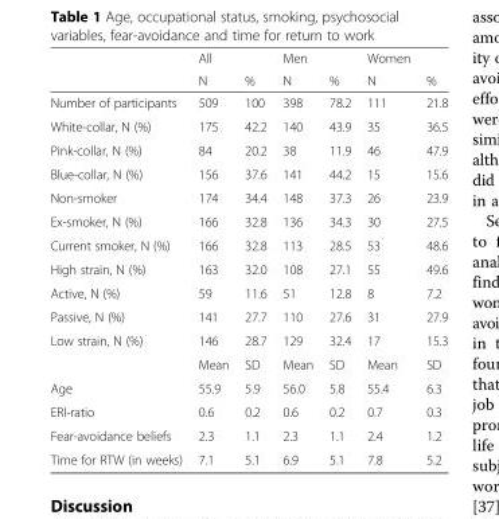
<table><thead><tr><td rowspan="2"></td><td rowspan="2">All N</td><td rowspan="2">%</td><td rowspan="2">Men N</td><td rowspan="2">%</td><td rowspan="2">Women N</td><td rowspan="2">%</td></tr><tr></tr></thead><tbody><tr><td>Number of participants</td><td>509</td><td>100</td><td>398</td><td>78.2</td><td>111</td><td>21.8</td></tr><tr><td>White-collar, N (%)</td><td>175</td><td>42.2</td><td>140</td><td>43.9</td><td>35</td><td>36.5</td></tr><tr><td>Pink-collar, N (%)</td><td>84</td><td>20.2</td><td>38</td><td>11.9</td><td>46</td><td>47.9</td></tr><tr><td>Blue-collar, N (%)</td><td>156</td><td>37.6</td><td>141</td><td>44.2</td><td>15</td><td>15.6</td></tr><tr><td>Non-smoker</td><td>174</td><td>34.4</td><td>148</td><td>37.3</td><td>26</td><td>23.9</td></tr><tr><td>Ex-smoker, N (%)</td><td>166</td><td>32.8</td><td>136</td><td>34.3</td><td>30</td><td>27.5</td></tr><tr><td>Current smoker, N (%)</td><td>166</td><td>32.8</td><td>113</td><td>28.5</td><td>53</td><td>48.6</td></tr><tr><td>High strain, N (%)</td><td>163</td><td>32.0</td><td>108</td><td>27.1</td><td>55</td><td>49.6</td></tr><tr><td>Active, N (%)</td><td>59</td><td>11.6</td><td>51</td><td>12.8</td><td>8</td><td>7.2</td></tr><tr><td>Passive, N (%)</td><td>141</td><td>27.7</td><td>110</td><td>27.6</td><td>31</td><td>27.9</td></tr><tr><td rowspan="2">Low strain, N (%)</td><td>146</td><td>28.7</td><td>129</td><td>32.4</td><td>17</td><td>15.3</td></tr><tr><td>Mean</td><td>SD</td><td>Mean</td><td>SD</td><td>Mean</td><td>SD</td></tr><tr><td>Age</td><td>55.9</td><td>5.9</td><td>56.0</td><td>5.8</td><td>55.4</td><td>6.3</td></tr><tr><td>ERI-ratio</td><td>0.6</td><td>0.2</td><td>0.6</td><td>0.2</td><td>0.7</td><td>0.3</td></tr><tr><td>Fear-avoidance beliefs</td><td>2.3</td><td>1.1</td><td>2.3</td><td>1.1</td><td>2.4</td><td>1.2</td></tr><tr><td>Time for RTW (in weeks)</td><td>7.1</td><td>5.1</td><td>6.9</td><td>5.1</td><td>7.8</td><td>5.2</td></tr></tbody></table>